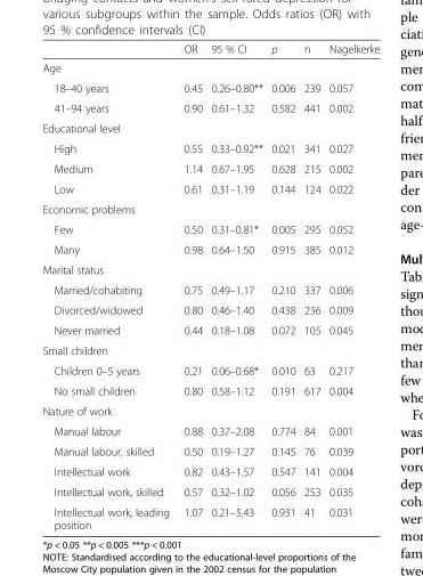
<table><thead><tr><td></td><td>OR</td><td>95 % CI</td><td>p</td><td>n</td><td>Nagelkerke</td></tr></thead><tbody><tr><td colspan="6">Age</td></tr><tr><td>18–40 years</td><td>0.45</td><td>0.26–0.80**</td><td>0.006</td><td>239</td><td>0.057</td></tr><tr><td>41–94 years</td><td>0.90</td><td>0.61–1.32</td><td>0.582</td><td>441</td><td>0.002</td></tr><tr><td colspan="6">Educational level</td></tr><tr><td>High</td><td>0.55</td><td>0.33–0.92**</td><td>0.021</td><td>341</td><td>0.027</td></tr><tr><td>Medium</td><td>1.14</td><td>0.67–1.95</td><td>0.628</td><td>215</td><td>0.002</td></tr><tr><td>Low</td><td>0.61</td><td>0.31–1.19</td><td>0.144</td><td>124</td><td>0.022</td></tr><tr><td colspan="6">Economic problems</td></tr><tr><td>Few</td><td>0.50</td><td>0.31–0.81*</td><td>0.005</td><td>295</td><td>0.052</td></tr><tr><td>Many</td><td>0.98</td><td>0.64–1.50</td><td>0.915</td><td>385</td><td>0.012</td></tr><tr><td colspan="6">Marital status</td></tr><tr><td>Married/cohabiting</td><td>0.75</td><td>0.49–1.17</td><td>0.210</td><td>337</td><td>0.006</td></tr><tr><td>Divorced/widowed</td><td>0.80</td><td>0.46–1.40</td><td>0.438</td><td>236</td><td>0.009</td></tr><tr><td>Never married</td><td>0.44</td><td>0.18–1.08</td><td>0.072</td><td>105</td><td>0.045</td></tr><tr><td colspan="6">Small children</td></tr><tr><td>Children 0–5 years</td><td>0.21</td><td>0.06–0.68*</td><td>0.010</td><td>63</td><td>0.217</td></tr><tr><td>No small children</td><td>0.80</td><td>0.58–1.12</td><td>0.191</td><td>617</td><td>0.004</td></tr><tr><td colspan="6">Nature of work</td></tr><tr><td>Manual labour</td><td>0.88</td><td>0.37–2.08</td><td>0.774</td><td>84</td><td>0.001</td></tr><tr><td>Manual labour, skilled</td><td>0.50</td><td>0.19–1.27</td><td>0.145</td><td>76</td><td>0.039</td></tr><tr><td>Intellectual work</td><td>0.82</td><td>0.43–1.57</td><td>0.547</td><td>141</td><td>0.004</td></tr><tr><td>Intellectual work, skilled</td><td>0.57</td><td>0.32–1.02</td><td>0.056</td><td>253</td><td>0.035</td></tr><tr><td>Intellectual work, leading position</td><td>1.07</td><td>0.21–5.43</td><td>0.931</td><td>41</td><td>0.031</td></tr></tbody></table>